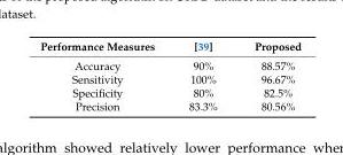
<table><thead><tr><td>Performance Measures</td><td>[39]</td><td>Proposed</td></tr></thead><tbody><tr><td>Accuracy</td><td>90%</td><td>88.57%</td></tr><tr><td>Sensitivity</td><td>100%</td><td>96.67%</td></tr><tr><td>Specificity</td><td>80%</td><td>82.5%</td></tr><tr><td>Precision</td><td>83.3%</td><td>80.56%</td></tr></tbody></table>